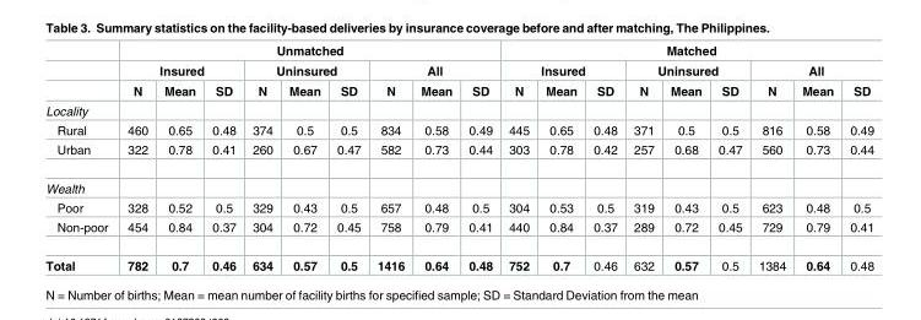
<table><thead><tr><td rowspan="3"></td><td colspan="9">Unmatched</td><td colspan="9">Matched</td></tr><tr><td colspan="3">Insured</td><td colspan="3">Uninsured</td><td colspan="3">All</td><td colspan="3">Insured</td><td colspan="3">Uninsured</td><td colspan="3">All</td></tr><tr><td>N</td><td>Mean</td><td>SD</td><td>N</td><td>Mean</td><td>SD</td><td>N</td><td>Mean</td><td>SD</td><td>N</td><td>Mean</td><td>SD</td><td>N</td><td>Mean</td><td>SD</td><td>N</td><td>Mean</td><td>SD</td></tr></thead><tbody><tr><td colspan="19">Locality</td></tr><tr><td>Rural</td><td>460</td><td>0.65</td><td>0.48</td><td>374</td><td>0.5</td><td>0.5</td><td>834</td><td>0.58</td><td>0.49</td><td>445</td><td>0.65</td><td>0.48</td><td>371</td><td>0.5</td><td>0.5</td><td>816</td><td>0.58</td><td>0.49</td></tr><tr><td>Urban</td><td>322</td><td>0.78</td><td>0.41</td><td>260</td><td>0.67</td><td>0.47</td><td>582</td><td>0.73</td><td>0.44</td><td>303</td><td>0.78</td><td>0.42</td><td>257</td><td>0.68</td><td>0.47</td><td>560</td><td>0.73</td><td>0.44</td></tr><tr><td colspan="19">Wealth</td></tr><tr><td>Poor</td><td>328</td><td>0.52</td><td>0.5</td><td>329</td><td>0.43</td><td>0.5</td><td>657</td><td>0.48</td><td>0.5</td><td>304</td><td>0.53</td><td>0.5</td><td>319</td><td>0.43</td><td>0.5</td><td>623</td><td>0.48</td><td>0.5</td></tr><tr><td>Non-poor</td><td>454</td><td>0.84</td><td>0.37</td><td>304</td><td>0.72</td><td>0.45</td><td>758</td><td>0.79</td><td>0.41</td><td>440</td><td>0.84</td><td>0.37</td><td>289</td><td>0.72</td><td>0.45</td><td>729</td><td>0.79</td><td>0.41</td></tr><tr><td>Total</td><td>782</td><td>0.7</td><td>0.46</td><td>634</td><td>0.57</td><td>0.5</td><td>1416</td><td>0.64</td><td>0.48</td><td>752</td><td>0.7</td><td>0.46</td><td>632</td><td>0.57</td><td>0.5</td><td>1384</td><td>0.64</td><td>0.48</td></tr></tbody></table>